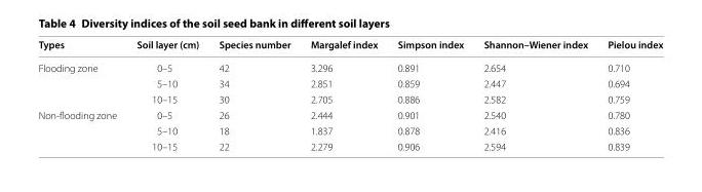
<table><thead><tr><td>Types</td><td>Soil layer (cm)</td><td>Species number</td><td>Margalef index</td><td>Simpson index</td><td>Shannon–Wiener index</td><td>Pielou index</td></tr></thead><tbody><tr><td rowspan="3">Flooding zone</td><td>0–5</td><td>42</td><td>3.296</td><td>0.891</td><td>2.654</td><td>0.710</td></tr><tr><td>5–10</td><td>34</td><td>2.851</td><td>0.859</td><td>2.447</td><td>0.694</td></tr><tr><td>10–15</td><td>30</td><td>2.705</td><td>0.886</td><td>2.582</td><td>0.759</td></tr><tr><td rowspan="3">Non-flooding zone</td><td>0–5</td><td>26</td><td>2.444</td><td>0.901</td><td>2.540</td><td>0.780</td></tr><tr><td>5–10</td><td>18</td><td>1.837</td><td>0.878</td><td>2.416</td><td>0.836</td></tr><tr><td>10–15</td><td>22</td><td>2.279</td><td>0.906</td><td>2.594</td><td>0.839</td></tr></tbody></table>